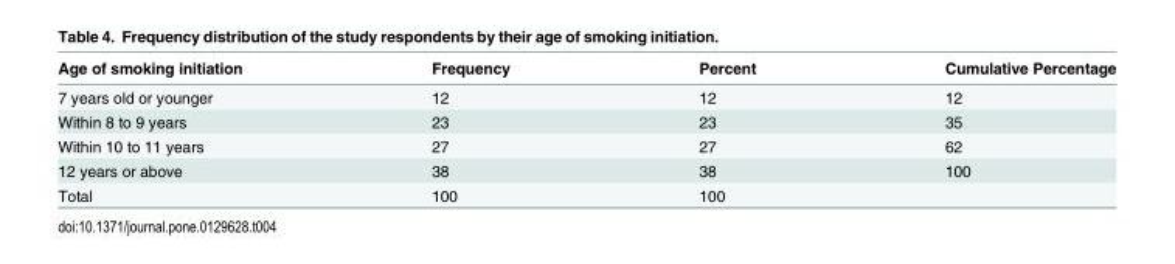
<table><thead><tr><td>Age of smoking initiation</td><td>Frequency</td><td>Percent</td><td>Cumulative Percentage</td></tr></thead><tbody><tr><td>7 years old or younger</td><td>12</td><td>12</td><td>12</td></tr><tr><td>Within 8 to 9 years</td><td>23</td><td>23</td><td>35</td></tr><tr><td>Within 10 to 11 years</td><td>27</td><td>27</td><td>62</td></tr><tr><td>12 years or above</td><td>38</td><td>38</td><td>100</td></tr><tr><td>Total</td><td>100</td><td>100</td><td></td></tr></tbody></table>